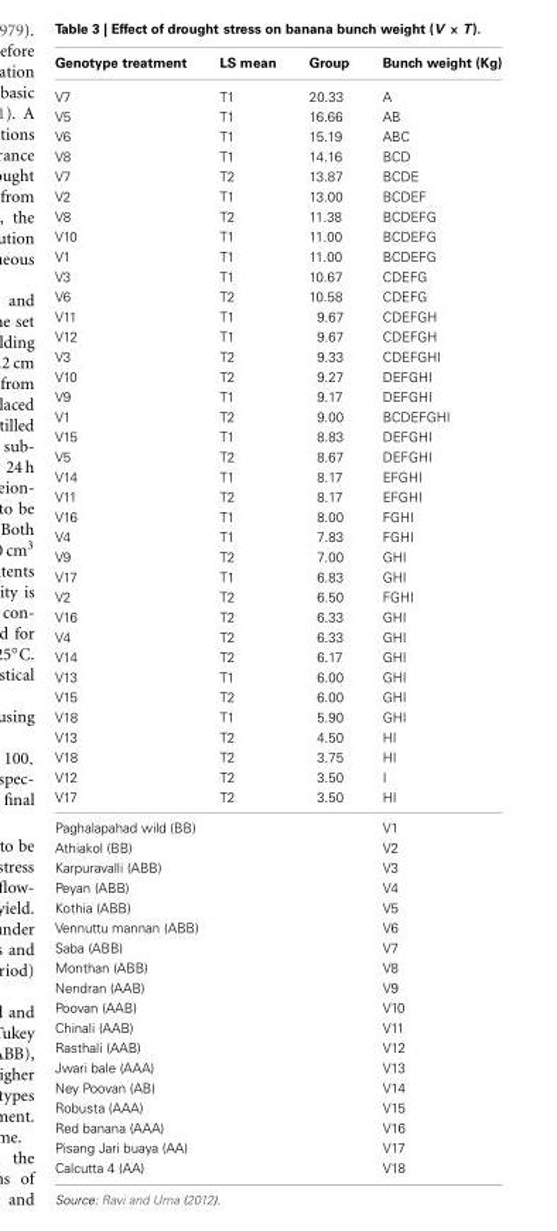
<table><thead><tr><td>Genotype treatment</td><td>LS mean</td><td>Group</td><td>Bunch weight (Kg)</td></tr></thead><tbody><tr><td>V7</td><td>T1</td><td>20.33</td><td>A</td></tr><tr><td>V5</td><td>T1</td><td>16.66</td><td>AB</td></tr><tr><td>V6</td><td>T1</td><td>15.19</td><td>ABC</td></tr><tr><td>V8</td><td>T1</td><td>14.16</td><td>BCD</td></tr><tr><td>V7</td><td>T2</td><td>13.87</td><td>BCDE</td></tr><tr><td>V2</td><td>T1</td><td>13.00</td><td>BCDEF</td></tr><tr><td>V8</td><td>T2</td><td>11.38</td><td>BCDEFG</td></tr><tr><td>V10</td><td>T1</td><td>11.00</td><td>BCDEFG</td></tr><tr><td>V1</td><td>T1</td><td>11.00</td><td>BCDEFG</td></tr><tr><td>V3</td><td>T1</td><td>10.67</td><td>CDEFG</td></tr><tr><td>V6</td><td>T2</td><td>10.58</td><td>CDEFG</td></tr><tr><td>V11</td><td>T1</td><td>9.67</td><td>CDEFGH</td></tr><tr><td>V12</td><td>T1</td><td>9.67</td><td>CDEFGH</td></tr><tr><td>V3</td><td>T2</td><td>9.33</td><td>CDEFGHI</td></tr><tr><td>V10</td><td>T2</td><td>9.27</td><td>DEFGHI</td></tr><tr><td>V9</td><td>T1</td><td>9.17</td><td>DEFGHI</td></tr><tr><td>V1</td><td>T2</td><td>9.00</td><td>BCDEFGHI</td></tr><tr><td>V15</td><td>T1</td><td>8.83</td><td>DEFGHI</td></tr><tr><td>V5</td><td>T2</td><td>8.67</td><td>DEFGHI</td></tr><tr><td>V14</td><td>T1</td><td>8.17</td><td>EFGHI</td></tr><tr><td>V11</td><td>T2</td><td>8.17</td><td>EFGHI</td></tr><tr><td>V16</td><td>T1</td><td>8.00</td><td>FGHI</td></tr><tr><td>V4</td><td>T1</td><td>7.83</td><td>FGHI</td></tr><tr><td>V9</td><td>T2</td><td>7.00</td><td>GHI</td></tr><tr><td>V17</td><td>T1</td><td>6.83</td><td>GHI</td></tr><tr><td>V2</td><td>T2</td><td>6.50</td><td>FGHI</td></tr><tr><td>V16</td><td>T2</td><td>6.33</td><td>GHI</td></tr><tr><td>V4</td><td>T2</td><td>6.33</td><td>GHI</td></tr><tr><td>V14</td><td>T2</td><td>6.17</td><td>GHI</td></tr><tr><td>V13</td><td>T1</td><td>6.00</td><td>GHI</td></tr><tr><td>V15</td><td>T2</td><td>6.00</td><td>GHI</td></tr><tr><td>V18</td><td>T1</td><td>5.90</td><td>GHI</td></tr><tr><td>V13</td><td>T2</td><td>4.50</td><td>HI</td></tr><tr><td>V18</td><td>T2</td><td>3.75</td><td>HI</td></tr><tr><td>V12</td><td>T2</td><td>3.50</td><td>I</td></tr><tr><td>V17</td><td>T2</td><td>3.50</td><td>HI</td></tr><tr><td>Paghalapahad wild (BB)</td><td></td><td></td><td>V1</td></tr><tr><td>Athiakol (BB)</td><td></td><td></td><td>V2</td></tr><tr><td>Karpuravalli (ABB)</td><td></td><td></td><td>V3</td></tr><tr><td>Peyan (ABB)</td><td></td><td></td><td>V4</td></tr><tr><td>Kothia (ABB)</td><td></td><td></td><td>V5</td></tr><tr><td>Vennuttu mannan (ABB)</td><td></td><td></td><td>V6</td></tr><tr><td>Saba (ABB)</td><td></td><td></td><td>V7</td></tr><tr><td>Monthan (ABB)</td><td></td><td></td><td>V8</td></tr><tr><td>Nendran (AAB)</td><td></td><td></td><td>V9</td></tr><tr><td>Poovan (AAB)</td><td></td><td></td><td>V10</td></tr><tr><td>Chinali (AAB)</td><td></td><td></td><td>V11</td></tr><tr><td>Rasthali (AAB)</td><td></td><td></td><td>V12</td></tr><tr><td>Jwari bale (AAA)</td><td></td><td></td><td>V13</td></tr><tr><td>Ney Poovan (AB)</td><td></td><td></td><td>V14</td></tr><tr><td>Robusta (AAA)</td><td></td><td></td><td>V15</td></tr><tr><td>Red banana (AAA)</td><td></td><td></td><td>V16</td></tr><tr><td>Pisang Jari buaya (AA)</td><td></td><td></td><td>V17</td></tr><tr><td>Calcutta 4 (AA)</td><td></td><td></td><td>V18</td></tr></tbody></table>